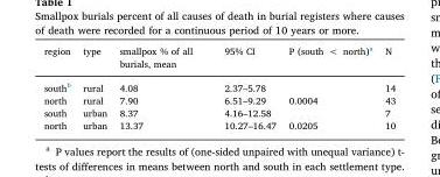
<table><thead><tr><td>region</td><td>type</td><td>smallpox % of all burials, mean</td><td>95% CI</td><td>P (south &lt; north)<sup>a</sup></td><td>N</td></tr></thead><tbody><tr><td>south<sup>b</sup></td><td>rural</td><td>4.08</td><td>2.37–5.78</td><td></td><td>14</td></tr><tr><td>north</td><td>rural</td><td>7.90</td><td>6.51–9.29</td><td>0.0004</td><td>43</td></tr><tr><td>south</td><td>urban</td><td>8.37</td><td>4.16–12.58</td><td></td><td>7</td></tr><tr><td>north</td><td>urban</td><td>13.37</td><td>10.27–16.47</td><td>0.0205</td><td>10</td></tr></tbody></table>